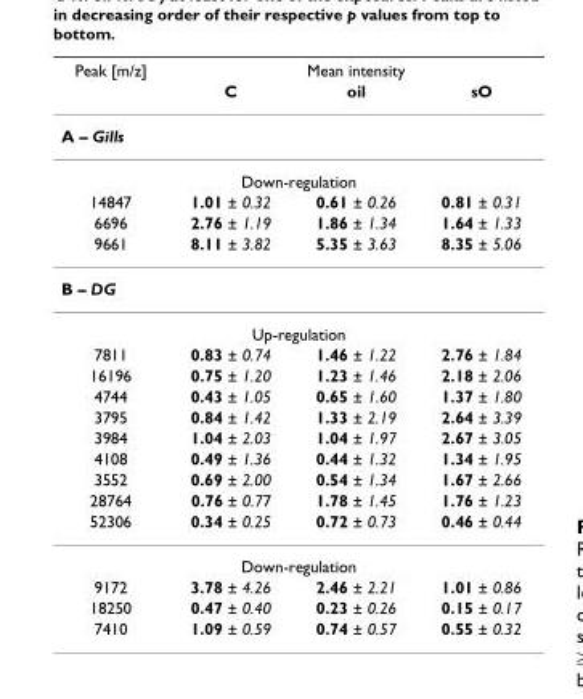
<table><thead><tr><td rowspan="2">Peak [m/z]</td><td colspan="3">Mean intensity</td></tr><tr><td>C</td><td>oil</td><td>sO</td></tr></thead><tbody><tr><td colspan="4">A – Gills</td></tr><tr><td colspan="4">Down-regulation</td></tr><tr><td>14847</td><td>1.01 ± 0.32</td><td>0.61 ± 0.26</td><td>0.81 ± 0.31</td></tr><tr><td>6696</td><td>2.76 ± 1.19</td><td>1.86 ± 1.34</td><td>1.64 ± 1.33</td></tr><tr><td>9661</td><td>8.11 ± 3.82</td><td>5.35 ± 3.63</td><td>8.35 ± 5.06</td></tr><tr><td colspan="4">B – DG</td></tr><tr><td colspan="4">Up-regulation</td></tr><tr><td>7811</td><td>0.83 ± 0.74</td><td>1.46 ± 1.22</td><td>2.76 ± 1.84</td></tr><tr><td>16196</td><td>0.75 ± 1.20</td><td>1.23 ± 1.46</td><td>2.18 ± 2.06</td></tr><tr><td>4744</td><td>0.43 ± 1.05</td><td>0.65 ± 1.60</td><td>1.37 ± 1.80</td></tr><tr><td>3795</td><td>0.84 ± 1.42</td><td>1.33 ± 2.19</td><td>2.64 ± 3.39</td></tr><tr><td>3984</td><td>1.04 ± 2.03</td><td>1.04 ± 1.97</td><td>2.67 ± 3.05</td></tr><tr><td>4108</td><td>0.49 ± 1.36</td><td>0.44 ± 1.32</td><td>1.34 ± 1.95</td></tr><tr><td>3552</td><td>0.69 ± 2.00</td><td>0.54 ± 1.34</td><td>1.67 ± 2.66</td></tr><tr><td>28764</td><td>0.76 ± 0.77</td><td>1.78 ± 1.45</td><td>1.76 ± 1.23</td></tr><tr><td>52306</td><td>0.34 ± 0.25</td><td>0.72 ± 0.73</td><td>0.46 ± 0.44</td></tr><tr><td colspan="4">Down-regulation</td></tr><tr><td>9172</td><td>3.78 ± 4.26</td><td>2.46 ± 2.21</td><td>1.01 ± 0.86</td></tr><tr><td>18250</td><td>0.47 ± 0.40</td><td>0.23 ± 0.26</td><td>0.15 ± 0.17</td></tr><tr><td>7410</td><td>1.09 ± 0.59</td><td>0.74 ± 0.57</td><td>0.55 ± 0.32</td></tr></tbody></table>